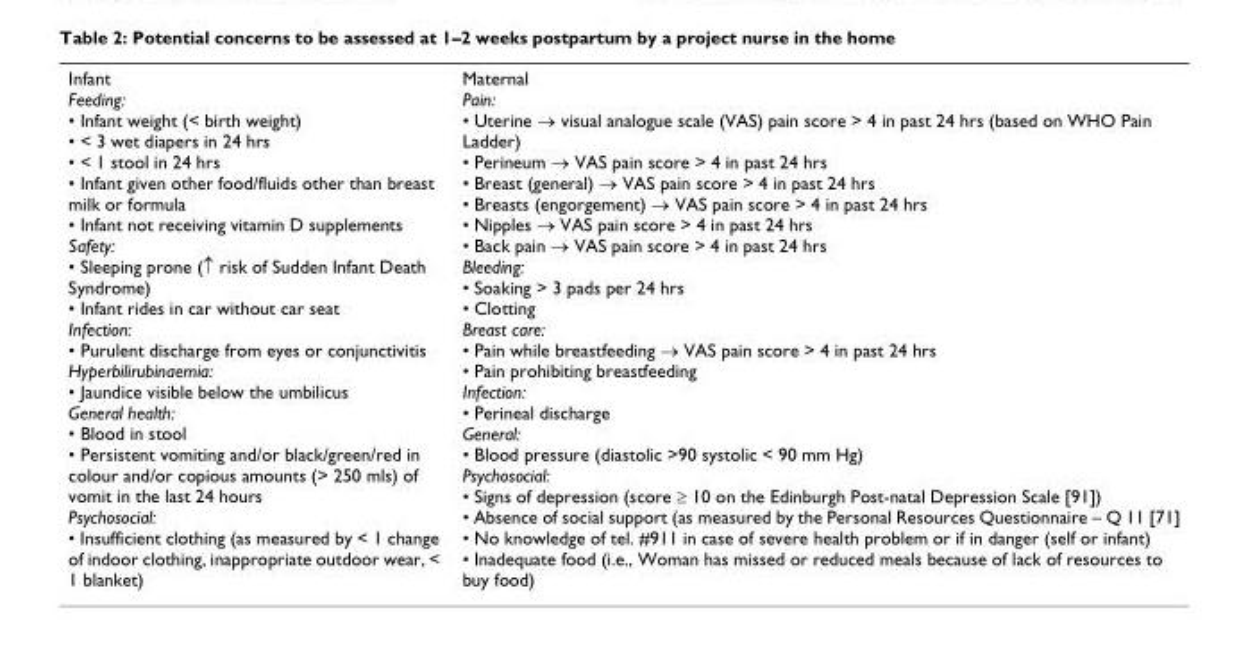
<table><tbody><tr><td>Infant Feeding: • Infant weight (&lt; birth weight) • &lt; 3 wet diapers in 24 hrs • &lt; 1 stool in 24 hrs • Infant given other food/fluids other than breast milk or formula • Infant not receiving vitamin D supplements Safety: • Sleeping prone (↑ risk of Sudden Infant Death Syndrome) • Infant rides in car without car seat Infection: • Purulent discharge from eyes or conjunctivitis Hyperbilirubinaemia: • Jaundice visible below the umbilicus General health: • Blood in stool • Persistent vomiting and/or black/green/red in colour and/or copious amounts (&gt; 250 mls) of vomit in the last 24 hours Psychosocial: • Insufficient clothing (as measured by &lt; 1 change of indoor clothing, inappropriate outdoor wear, &lt; 1 blanket)</td><td>Maternal Pain: • Uterine → visual analogue scale (VAS) pain score &gt; 4 in past 24 hrs (based on WHO Pain Ladder) • Perineum → VAS pain score &gt; 4 in past 24 hrs • Breast (general) → VAS pain score &gt; 4 in past 24 hrs • Breasts (engorgement) → VAS pain score &gt; 4 in past 24 hrs • Nipples → VAS pain score &gt; 4 in past 24 hrs • Back pain → VAS pain score &gt; 4 in past 24 hrs Bleeding: • Soaking &gt; 3 pads per 24 hrs • Clotting Breast care: • Pain while breastfeeding → VAS pain score &gt; 4 in past 24 hrs • Pain prohibiting breastfeeding Infection: • Perineal discharge General: • Blood pressure (diastolic &gt;90 systolic &lt; 90 mm Hg) Psychosocial: • Signs of depression (score ≥ 10 on the Edinburgh Post-natal Depression Scale [91]) • Absence of social support (as measured by the Personal Resources Questionnaire – Q 11 [71] • No knowledge of tel. #911 in case of severe health problem or if in danger (self or infant) • Inadequate food (i.e., Woman has missed or reduced meals because of lack of resources to buy food)</td></tr></tbody></table>